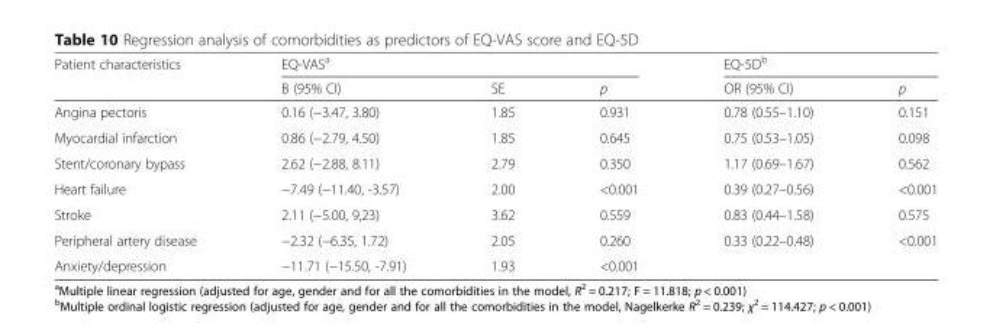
<table><thead><tr><td rowspan="2">Patient characteristics</td><td colspan="3">EQ-VAS<sup>a</sup></td><td colspan="2">EQ-5D<sup>b</sup></td></tr><tr><td>B (95% CI)</td><td>SE</td><td>p</td><td>OR (95% CI)</td><td>p</td></tr></thead><tbody><tr><td>Angina pectoris</td><td>0.16 (−3.47, 3.80)</td><td>1.85</td><td>0.931</td><td>0.78 (0.55–1.10)</td><td>0.151</td></tr><tr><td>Myocardial infarction</td><td>0.86 (−2.79, 4.50)</td><td>1.85</td><td>0.645</td><td>0.75 (0.53–1.05)</td><td>0.098</td></tr><tr><td>Stent/coronary bypass</td><td>2.62 (−2.88, 8.11)</td><td>2.79</td><td>0.350</td><td>1.17 (0.69–1.67)</td><td>0.562</td></tr><tr><td>Heart failure</td><td>−7.49 (−11.40, -3.57)</td><td>2.00</td><td>&lt;0.001</td><td>0.39 (0.27–0.56)</td><td>&lt;0.001</td></tr><tr><td>Stroke</td><td>2.11 (−5.00, 9,23)</td><td>3.62</td><td>0.559</td><td>0.83 (0.44–1.58)</td><td>0.575</td></tr><tr><td>Peripheral artery disease</td><td>−2.32 (−6.35, 1.72)</td><td>2.05</td><td>0.260</td><td>0.33 (0.22–0.48)</td><td>&lt;0.001</td></tr><tr><td>Anxiety/depression</td><td>−11.71 (−15.50, -7.91)</td><td>1.93</td><td>&lt;0.001</td><td></td><td></td></tr></tbody></table>